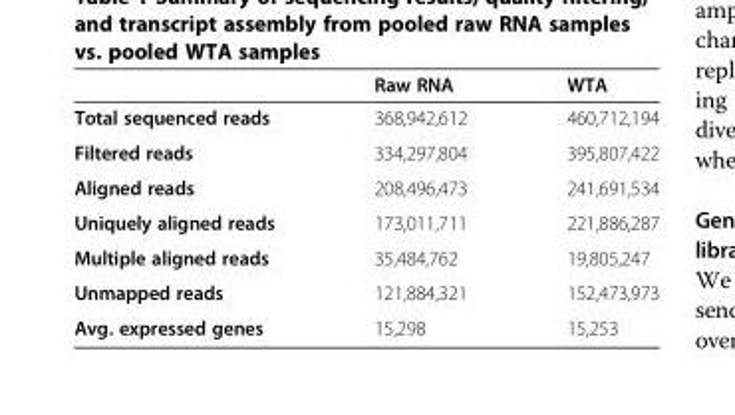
<table><thead><tr><td></td><td>Raw RNA</td><td>WTA</td></tr></thead><tbody><tr><td>Total sequenced reads</td><td>368,942,612</td><td>460,712,194</td></tr><tr><td>Filtered reads</td><td>334,297,804</td><td>395,807,422</td></tr><tr><td>Aligned reads</td><td>208,496,473</td><td>241,691,534</td></tr><tr><td>Uniquely aligned reads</td><td>173,011,711</td><td>221,886,287</td></tr><tr><td>Multiple aligned reads</td><td>35,484,762</td><td>19,805,247</td></tr><tr><td>Unmapped reads</td><td>121,884,321</td><td>152,473,973</td></tr><tr><td>Avg. expressed genes</td><td>15,298</td><td>15,253</td></tr></tbody></table>